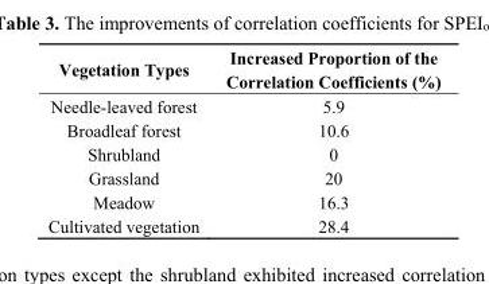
<table><thead><tr><td>Vegetation Types</td><td>Increased Proportion of the Correlation Coefficients (%)</td></tr></thead><tbody><tr><td>Needle-leaved forest</td><td>5.9</td></tr><tr><td>Broadleaf forest</td><td>10.6</td></tr><tr><td>Shrubland</td><td>0</td></tr><tr><td>Grassland</td><td>20</td></tr><tr><td>Meadow</td><td>16.3</td></tr><tr><td>Cultivated vegetation</td><td>28.4</td></tr></tbody></table>